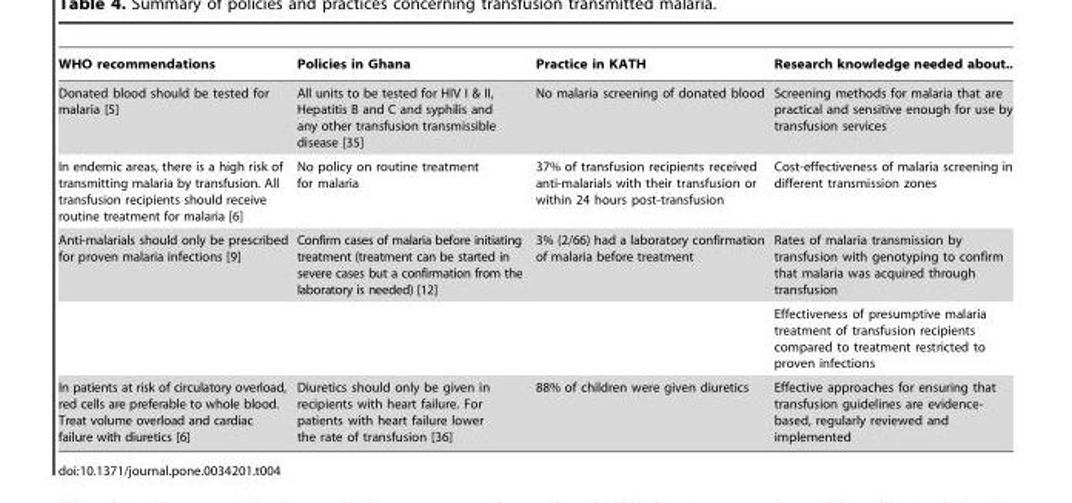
<table><thead><tr><td>WHO recommendations</td><td>Policies in Ghana</td><td>Practice in KATH</td><td>Research knowledge needed about..</td></tr></thead><tbody><tr><td>Donated blood should be tested for malaria [5]</td><td>All units to be tested for HIV I &amp; II, Hepatitis B and C and syphilis and any other transfusion transmissible disease [35]</td><td>No malaria screening of donated blood</td><td>Screening methods for malaria that are practical and sensitive enough for use by transfusion services</td></tr><tr><td>In endemic areas, there is a high risk of transmitting malaria by transfusion. All transfusion recipients should receive routine treatment for malaria [6]</td><td>No policy on routine treatment for malaria</td><td>37% of transfusion recipients received anti-malarials with their transfusion or within 24 hours post-transfusion</td><td>Cost-effectiveness of malaria screening in different transmission zones</td></tr><tr><td rowspan="2">Anti-malarials should only be prescribed for proven malaria infections [9]</td><td>Confirm cases of malaria before initiating treatment (treatment can be started in severe cases but a confirmation from the laboratory is needed) [12]</td><td>3% (2/66) had a laboratory confirmation of malaria before treatment</td><td>Rates of malaria transmission by transfusion with genotyping to confirm that malaria was acquired through transfusion</td></tr><tr><td></td><td></td><td>Effectiveness of presumptive malaria treatment of transfusion recipients compared to treatment restricted to proven infections</td></tr><tr><td>In patients at risk of circulatory overload, red cells are preferable to whole blood. Treat volume overload and cardiac failure with diuretics [6]</td><td>Diuretics should only be given in recipients with heart failure. For patients with heart failure lower the rate of transfusion [36]</td><td>88% of children were given diuretics</td><td>Effective approaches for ensuring that transfusion guidelines are evidence- based, regularly reviewed and implemented</td></tr></tbody></table>